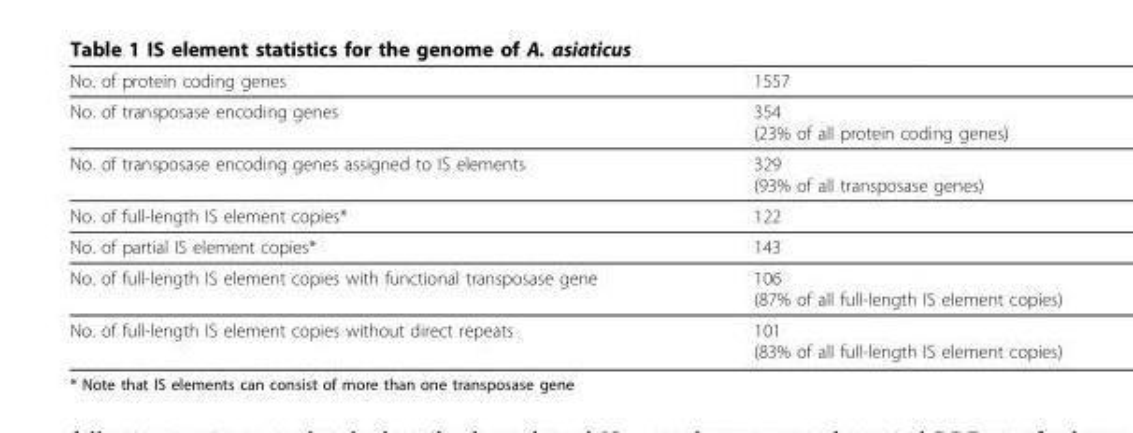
<table><thead><tr><td>No. of protein coding genes</td><td>1557</td></tr></thead><tbody><tr><td>No. of transposase encoding genes</td><td>354 (23% of all protein coding genes)</td></tr><tr><td>No. of transposase encoding genes assigned to IS elements</td><td>329 (93% of all transposase genes)</td></tr><tr><td>No. of full-length IS element copies*</td><td>122</td></tr><tr><td>No. of partial IS element copies*</td><td>143</td></tr><tr><td>No. of full-length IS element copies with functional transposase gene</td><td>106 (87% of all full-length IS element copies)</td></tr><tr><td>No. of full-length IS element copies without direct repeats</td><td>101 (83% of all full-length IS element copies)</td></tr></tbody></table>